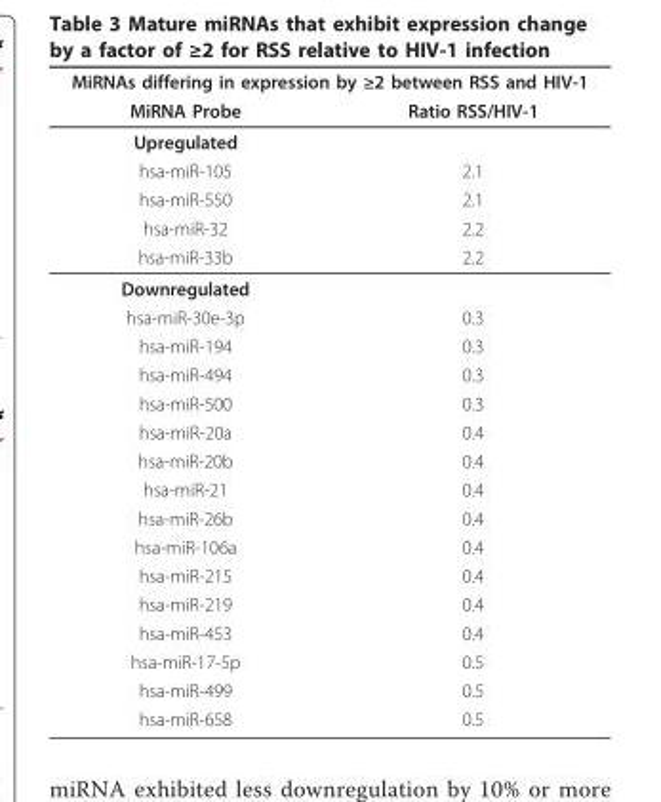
<table><thead><tr><td colspan="2">MiRNAs differing in expression by ≥2 between RSS and HIV-1</td></tr><tr><td>MiRNA Probe</td><td>Ratio RSS/HIV-1</td></tr></thead><tbody><tr><td colspan="2">Upregulated</td></tr><tr><td>hsa-miR-105</td><td>2.1</td></tr><tr><td>hsa-miR-550</td><td>2.1</td></tr><tr><td>hsa-miR-32</td><td>2.2</td></tr><tr><td>hsa-miR-33b</td><td>2.2</td></tr><tr><td colspan="2">Downregulated</td></tr><tr><td>hsa-miR-30e-3p</td><td>0.3</td></tr><tr><td>hsa-miR-194</td><td>0.3</td></tr><tr><td>hsa-miR-494</td><td>0.3</td></tr><tr><td>hsa-miR-500</td><td>0.3</td></tr><tr><td>hsa-miR-20a</td><td>0.4</td></tr><tr><td>hsa-miR-20b</td><td>0.4</td></tr><tr><td>hsa-miR-21</td><td>0.4</td></tr><tr><td>hsa-miR-26b</td><td>0.4</td></tr><tr><td>hsa-miR-106a</td><td>0.4</td></tr><tr><td>hsa-miR-215</td><td>0.4</td></tr><tr><td>hsa-miR-219</td><td>0.4</td></tr><tr><td>hsa-miR-453</td><td>0.4</td></tr><tr><td>hsa-miR-17-5p</td><td>0.5</td></tr><tr><td>hsa-miR-499</td><td>0.5</td></tr><tr><td>hsa-miR-658</td><td>0.5</td></tr></tbody></table>